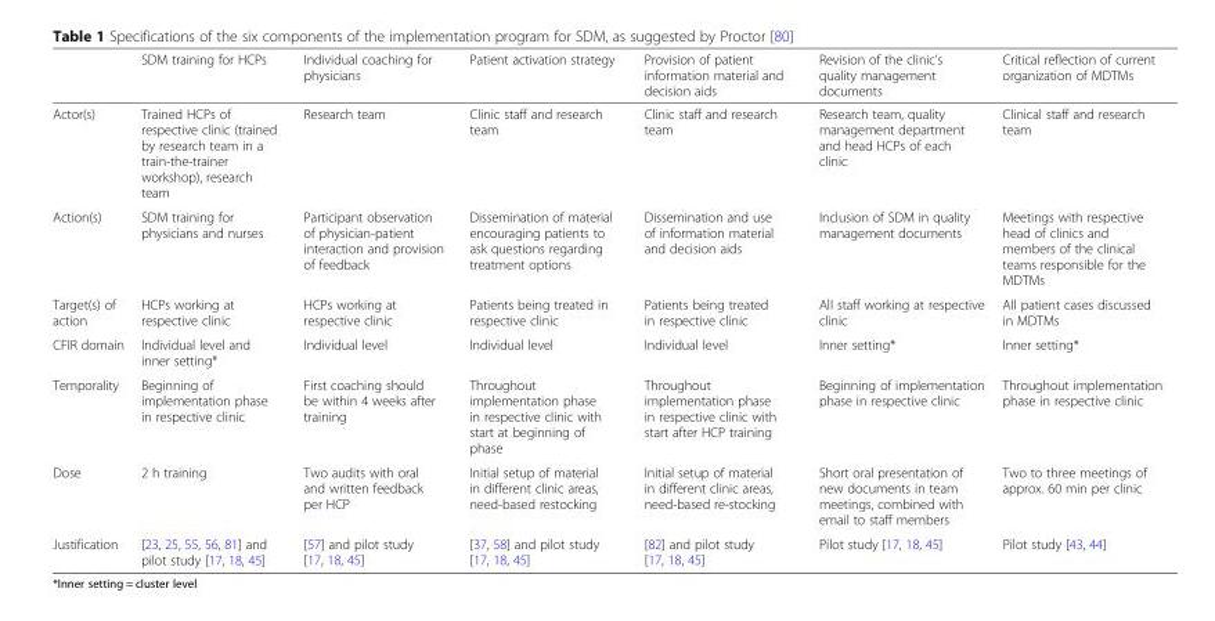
<table><thead><tr><td></td><td>SDM training for HCPs</td><td>Individual coaching for physicians</td><td>Patient activation strategy</td><td>Provision of patient information material and decision aids</td><td>Revision of the clinic’s quality management documents</td><td>Critical reflection of current organization of MDTMs</td></tr></thead><tbody><tr><td>Actor(s)</td><td>Trained HCPs of respective clinic (trained by research team in a train-the-trainer workshop), research team</td><td>Research team</td><td>Clinic staff and research team</td><td>Clinic staff and research team</td><td>Research team, quality management department and head HCPs of each clinic</td><td>Clinical staff and research team</td></tr><tr><td>Action(s)</td><td>SDM training for physicians and nurses</td><td>Participant observation of physician-patient interaction and provision of feedback</td><td>Dissemination of material encouraging patients to ask questions regarding treatment options</td><td>Dissemination and use of information material and decision aids</td><td>Inclusion of SDM in quality management documents</td><td>Meetings with respective head of clinics and members of the clinical teams responsible for the MDTMs</td></tr><tr><td>Target(s) of action</td><td>HCPs working at respective clinic</td><td>HCPs working at respective clinic</td><td>Patients being treated in respective clinic</td><td>Patients being treated in respective clinic</td><td>All staff working at respective clinic</td><td>All patient cases discussed in MDTMs</td></tr><tr><td>CFIR domain</td><td>Individual level and inner setting*</td><td>Individual level</td><td>Individual level</td><td>Individual level</td><td>Inner setting*</td><td>Inner setting*</td></tr><tr><td>Temporality</td><td>Beginning of implementation phase in respective clinic</td><td>First coaching should be within 4 weeks after training</td><td>Throughout implementation phase in respective clinic with start at beginning of phase</td><td>Throughout implementation phase in respective clinic with start after HCP training</td><td>Beginning of implementation phase in respective clinic</td><td>Throughout implementation phase in respective clinic</td></tr><tr><td>Dose</td><td>2 h training</td><td>Two audits with oral and written feedback per HCP</td><td>Initial setup of material in different clinic areas, need-based restocking</td><td>Initial setup of material in different clinic areas, need-based re-stocking</td><td>Short oral presentation of new documents in team meetings, combined with email to staff members</td><td>Two to three meetings of approx. 60 min per clinic</td></tr><tr><td>Justification</td><td>[23, 25, 55, 56, 81] and pilot study [17, 18, 45]</td><td>[57] and pilot study [17, 18, 45]</td><td>[37, 58] and pilot study [17, 18, 45]</td><td>[82] and pilot study [17, 18, 45]</td><td>Pilot study [17, 18, 45]</td><td>Pilot study [43, 44]</td></tr></tbody></table>